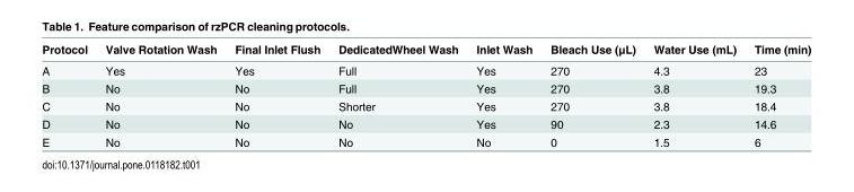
<table><thead><tr><td>Protocol</td><td>Valve Rotation Wash</td><td>Final Inlet Flush</td><td>DedicatedWheel Wash</td><td>Inlet Wash</td><td>Bleach Use (μL)</td><td>Water Use (mL)</td><td>Time (min)</td></tr></thead><tbody><tr><td>A</td><td>Yes</td><td>Yes</td><td>Full</td><td>Yes</td><td>270</td><td>4.3</td><td>23</td></tr><tr><td>B</td><td>No</td><td>No</td><td>Full</td><td>Yes</td><td>270</td><td>3.8</td><td>19.3</td></tr><tr><td>C</td><td>No</td><td>No</td><td>Shorter</td><td>Yes</td><td>270</td><td>3.8</td><td>18.4</td></tr><tr><td>D</td><td>No</td><td>No</td><td>No</td><td>Yes</td><td>90</td><td>2.3</td><td>14.6</td></tr><tr><td>E</td><td>No</td><td>No</td><td>No</td><td>No</td><td>0</td><td>1.5</td><td>6</td></tr></tbody></table>